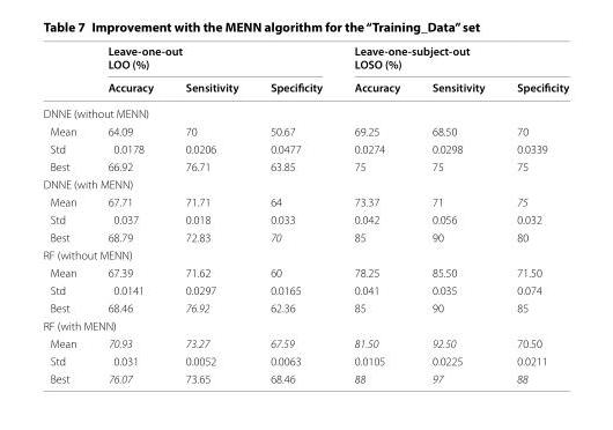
<table><thead><tr><td rowspan="2"></td><td colspan="3">Leave‑one‑out LOO (%)</td><td colspan="3">Leave‑one‑subject‑out LOSO (%)</td></tr><tr><td>Accuracy</td><td>Sensitivity</td><td>Specificity</td><td>Accuracy</td><td>Sensitivity</td><td>Specificity</td></tr></thead><tbody><tr><td colspan="7">DNNE (without MENN)</td></tr><tr><td>Mean</td><td>64.09</td><td>70</td><td>50.67</td><td>69.25</td><td>68.50</td><td>70</td></tr><tr><td>Std</td><td>0.0178</td><td>0.0206</td><td>0.0477</td><td>0.0274</td><td>0.0298</td><td>0.0339</td></tr><tr><td>Best</td><td>66.92</td><td>76.71</td><td>63.85</td><td>75</td><td>75</td><td>75</td></tr><tr><td colspan="7">DNNE (with MENN)</td></tr><tr><td>Mean</td><td>67.71</td><td>71.71</td><td>64</td><td>73.37</td><td>71</td><td>75</td></tr><tr><td>Std</td><td>0.037</td><td>0.018</td><td>0.033</td><td>0.042</td><td>0.056</td><td>0.032</td></tr><tr><td>Best</td><td>68.79</td><td>72.83</td><td>70</td><td>85</td><td>90</td><td>80</td></tr><tr><td colspan="7">RF (without MENN)</td></tr><tr><td>Mean</td><td>67.39</td><td>71.62</td><td>60</td><td>78.25</td><td>85.50</td><td>71.50</td></tr><tr><td>Std</td><td>0.0141</td><td>0.0297</td><td>0.0165</td><td>0.041</td><td>0.035</td><td>0.074</td></tr><tr><td>Best</td><td>68.46</td><td>76.92</td><td>62.36</td><td>85</td><td>90</td><td>85</td></tr><tr><td colspan="7">RF (with MENN)</td></tr><tr><td>Mean</td><td>70.93</td><td>73.27</td><td>67.59</td><td>81.50</td><td>92.50</td><td>70.50</td></tr><tr><td>Std</td><td>0.031</td><td>0.0052</td><td>0.0063</td><td>0.0105</td><td>0.0225</td><td>0.0211</td></tr><tr><td>Best</td><td>76.07</td><td>73.65</td><td>68.46</td><td>88</td><td>97</td><td>88</td></tr></tbody></table>